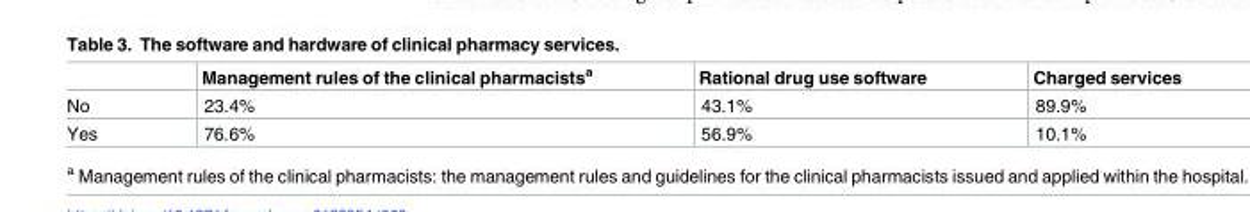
<table><thead><tr><td></td><td>Management rules of the clinical pharmacists<sup>a</sup></td><td>Rational drug use software</td><td>Charged services</td></tr></thead><tbody><tr><td>No</td><td>23.4%</td><td>43.1%</td><td>89.9%</td></tr><tr><td>Yes</td><td>76.6%</td><td>56.9%</td><td>10.1%</td></tr></tbody></table>